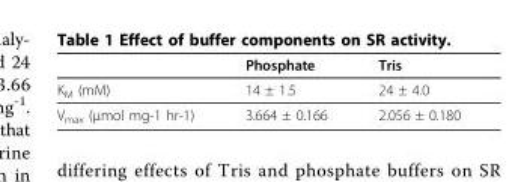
<table><thead><tr><td></td><td>Phosphate</td><td>Tris</td></tr></thead><tbody><tr><td>K<sub>M</sub> (mM)</td><td>14 ± 1.5</td><td>24 ± 4.0</td></tr><tr><td>V<sub>max</sub> (μmol mg-1 hr-1)</td><td>3.664 ± 0.166</td><td>2.056 ± 0.180</td></tr></tbody></table>